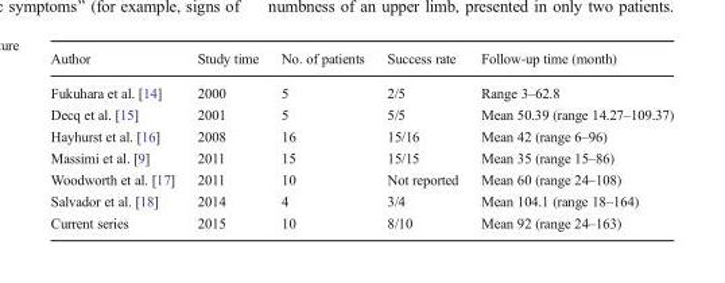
<table><thead><tr><td>Author</td><td>Study time</td><td>No. of patients</td><td>Success rate</td><td>Follow-up time (month)</td></tr></thead><tbody><tr><td>Fukuhara et al. [14]</td><td>2000</td><td>5</td><td>2/5</td><td>Range 3–62.8</td></tr><tr><td>Decq et al. [15]</td><td>2001</td><td>5</td><td>5/5</td><td>Mean 50.39 (range 14.27–109.37)</td></tr><tr><td>Hayhurst et al. [16]</td><td>2008</td><td>16</td><td>15/16</td><td>Mean 42 (range 6–96)</td></tr><tr><td>Massimi et al. [9]</td><td>2011</td><td>15</td><td>15/15</td><td>Mean 35 (range 15–86)</td></tr><tr><td>Woodworth et al. [17]</td><td>2011</td><td>10</td><td>Not reported</td><td>Mean 60 (range 24–108)</td></tr><tr><td>Salvador et al. [18]</td><td>2014</td><td>4</td><td>3/4</td><td>Mean 104.1 (range 18–164)</td></tr><tr><td>Current series</td><td>2015</td><td>10</td><td>8/10</td><td>Mean 92 (range 24–163)</td></tr></tbody></table>